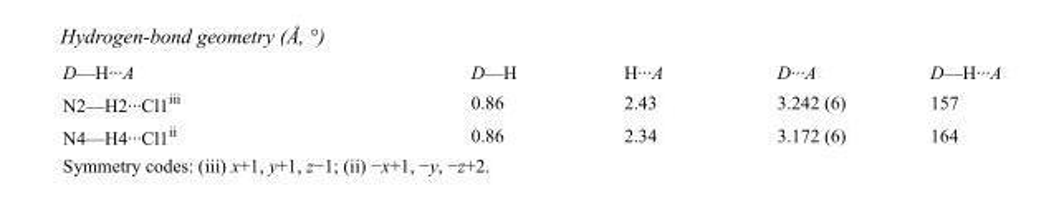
<table><tbody><tr><td>D—H···A</td><td>D—H</td><td>H···A</td><td>D···A</td><td>D—H···A</td></tr><tr><td>N2—H2···Cl1<sup>iii</sup></td><td>0.86</td><td>2.43</td><td>3.242 (6)</td><td>157</td></tr><tr><td>N4—H4···Cl1<sup>ii</sup></td><td>0.86</td><td>2.34</td><td>3.172 (6)</td><td>164</td></tr></tbody></table>